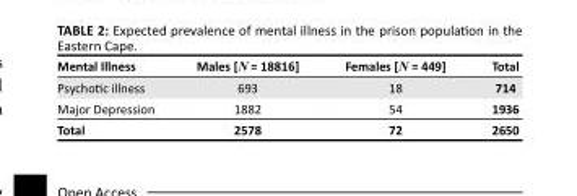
<table><thead><tr><td>Mental Illness</td><td>Males [N = 18816]</td><td>Females [N = 449]</td><td>Total</td></tr></thead><tbody><tr><td>Psychotic illness</td><td>693</td><td>18</td><td>714</td></tr><tr><td>Major Depression</td><td>1882</td><td>54</td><td>1936</td></tr><tr><td>Total</td><td>2578</td><td>72</td><td>2650</td></tr></tbody></table>